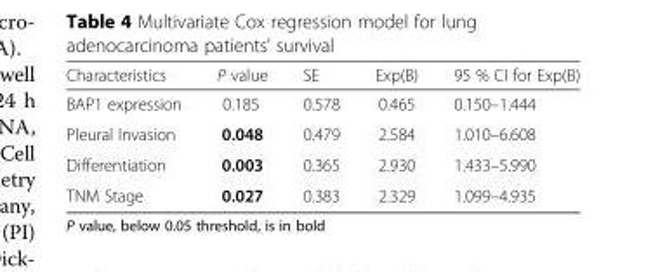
<table><thead><tr><td>Characteristics</td><td>P value</td><td>SE</td><td>Exp(B)</td><td>95 % CI for Exp(B)</td></tr></thead><tbody><tr><td>BAP1 expression</td><td>0.185</td><td>0.578</td><td>0.465</td><td>0.150–1.444</td></tr><tr><td>Pleural Invasion</td><td>0.048</td><td>0.479</td><td>2.584</td><td>1.010–6.608</td></tr><tr><td>Differentiation</td><td>0.003</td><td>0.365</td><td>2.930</td><td>1.433–5.990</td></tr><tr><td>TNM Stage</td><td>0.027</td><td>0.383</td><td>2.329</td><td>1.099–4.935</td></tr></tbody></table>